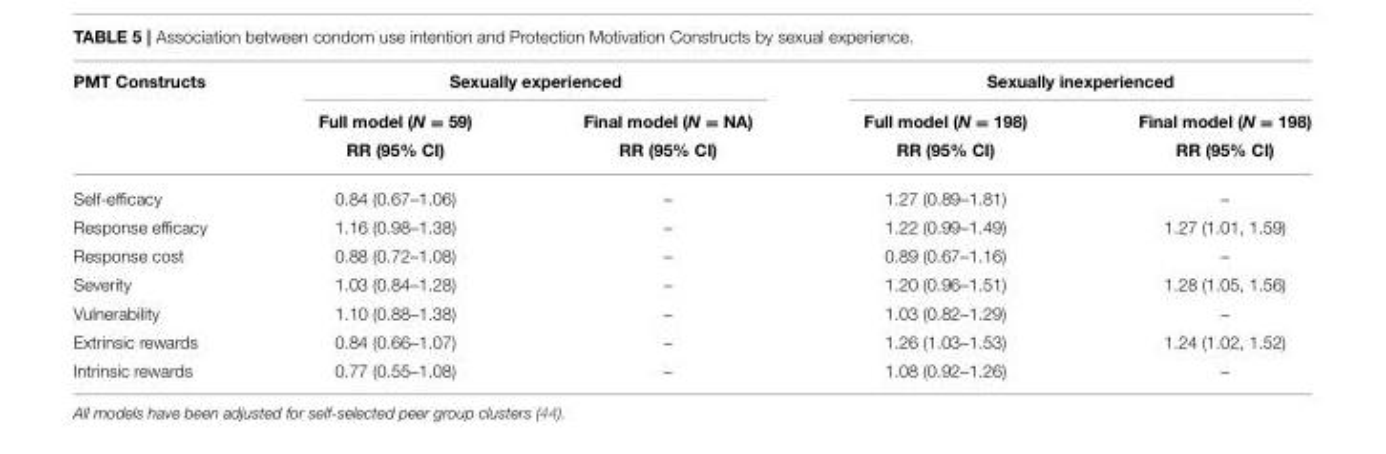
<table><thead><tr><td rowspan="3">PMT Constructs</td><td colspan="2">Sexually experienced</td><td colspan="2">Sexually inexperienced</td></tr><tr><td rowspan="2">Full model (N = 59) RR (95% CI)</td><td rowspan="2">Final model (N = NA) RR (95% CI)</td><td rowspan="2">Full model (N = 198) RR (95% CI)</td><td rowspan="2">Final model (N = 198) RR (95% CI)</td></tr><tr></tr></thead><tbody><tr><td>Self-efficacy</td><td>0.84 (0.67–1.06)</td><td>–</td><td>1.27 (0.89–1.81)</td><td>–</td></tr><tr><td>Response efficacy</td><td>1.16 (0.98–1.38)</td><td>–</td><td>1.22 (0.99–1.49)</td><td>1.27 (1.01, 1.59)</td></tr><tr><td>Response cost</td><td>0.88 (0.72–1.08)</td><td>–</td><td>0.89 (0.67–1.16)</td><td>–</td></tr><tr><td>Severity</td><td>1.03 (0.84–1.28)</td><td>–</td><td>1.20 (0.96–1.51)</td><td>1.28 (1.05, 1.56)</td></tr><tr><td>Vulnerability</td><td>1.10 (0.88–1.38)</td><td>–</td><td>1.03 (0.82–1.29)</td><td>–</td></tr><tr><td>Extrinsic rewards</td><td>0.84 (0.66–1.07)</td><td>–</td><td>1.26 (1.03–1.53)</td><td>1.24 (1.02, 1.52)</td></tr><tr><td>Intrinsic rewards</td><td>0.77 (0.55–1.08)</td><td>–</td><td>1.08 (0.92–1.26)</td><td>–</td></tr></tbody></table>